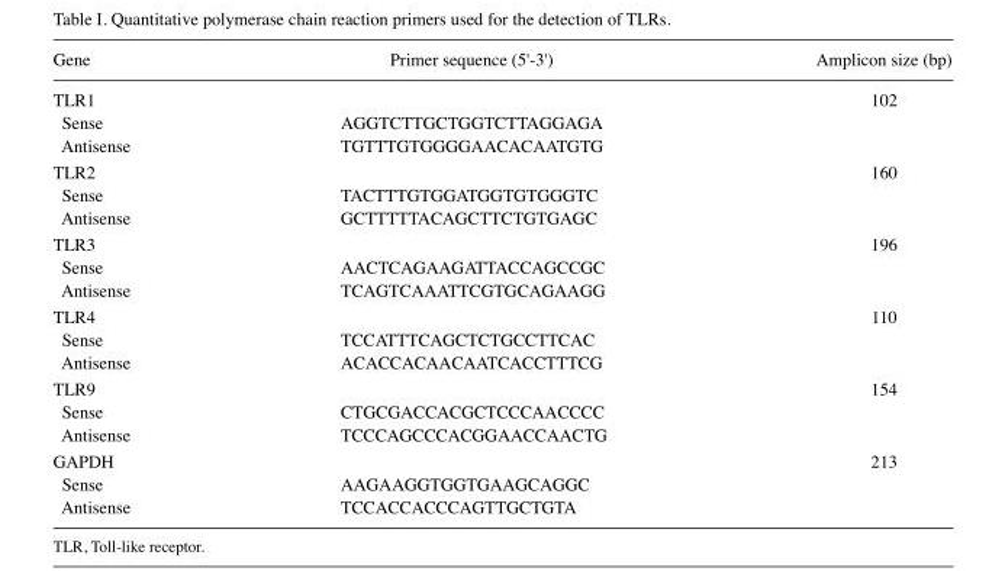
<table><thead><tr><td>Gene</td><td>Primer sequence (5&#x27;-3&#x27;)</td><td>Amplicon size (bp)</td></tr></thead><tbody><tr><td>TLR1</td><td></td><td>102</td></tr><tr><td>Sense</td><td>AGGTCTTGCTGGTCTTAGGAGA</td><td></td></tr><tr><td>Antisense</td><td>TGTTTGTGGGGAACACAATGTG</td><td></td></tr><tr><td>TLR2</td><td></td><td>160</td></tr><tr><td>Sense</td><td>TACTTTGTGGATGGTGTGGGTC</td><td></td></tr><tr><td>Antisense</td><td>GCTTTTTACAGCTTCTGTGAGC</td><td></td></tr><tr><td>TLR3</td><td></td><td>196</td></tr><tr><td>Sense</td><td>AACTCAGAAGATTACCAGCCGC</td><td></td></tr><tr><td>Antisense</td><td>TCAGTCAAATTCGTGCAGAAGG</td><td></td></tr><tr><td>TLR4</td><td></td><td>110</td></tr><tr><td>Sense</td><td>TCCATTTCAGCTCTGCCTTCAC</td><td></td></tr><tr><td>Antisense</td><td>ACACCACAACAATCACCTTTCG</td><td></td></tr><tr><td>TLR9</td><td></td><td>154</td></tr><tr><td>Sense</td><td>CTGCGACCACGCTCCCAACCCC</td><td></td></tr><tr><td>Antisense</td><td>TCCCAGCCCACGGAACCAACTG</td><td></td></tr><tr><td>GAPDH</td><td></td><td>213</td></tr><tr><td>Sense</td><td>AAGAAGGTGGTGAAGCAGGC</td><td></td></tr><tr><td>Antisense</td><td>TCCACCACCCAGTTGCTGTA</td><td></td></tr></tbody></table>